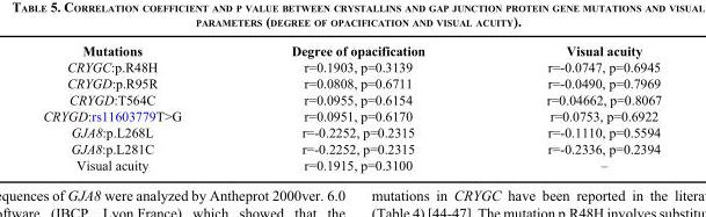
<table><thead><tr><td>Mutations</td><td>Degree of opacification</td><td>Visual acuity</td></tr></thead><tbody><tr><td>CRYGC:p.R48H</td><td>r=0.1903, p=0.3139</td><td>r=-0.0747, p=0.6945</td></tr><tr><td>CRYGD:p.R95R</td><td>r=0.0808, p=0.6711</td><td>r=-0.0490, p=0.7969</td></tr><tr><td>CRYGD:T564C</td><td>r=0.0955, p=0.6154</td><td>r=0.04662, p=0.8067</td></tr><tr><td>CRYGD:rs11603779T&gt;G</td><td>r=0.0951, p=0.6170</td><td>r=0.0753, p=0.6922</td></tr><tr><td>GJA8:p.L268L</td><td>r=-0.2252, p=0.2315</td><td>r=-0.1110, p=0.5594</td></tr><tr><td>GJA8:p.L281C</td><td>r=-0.2252, p=0.2315</td><td>r=-0.2336, p=0.2394</td></tr><tr><td>Visual acuity</td><td>r=0.1915, p=0.3100</td><td>–</td></tr></tbody></table>